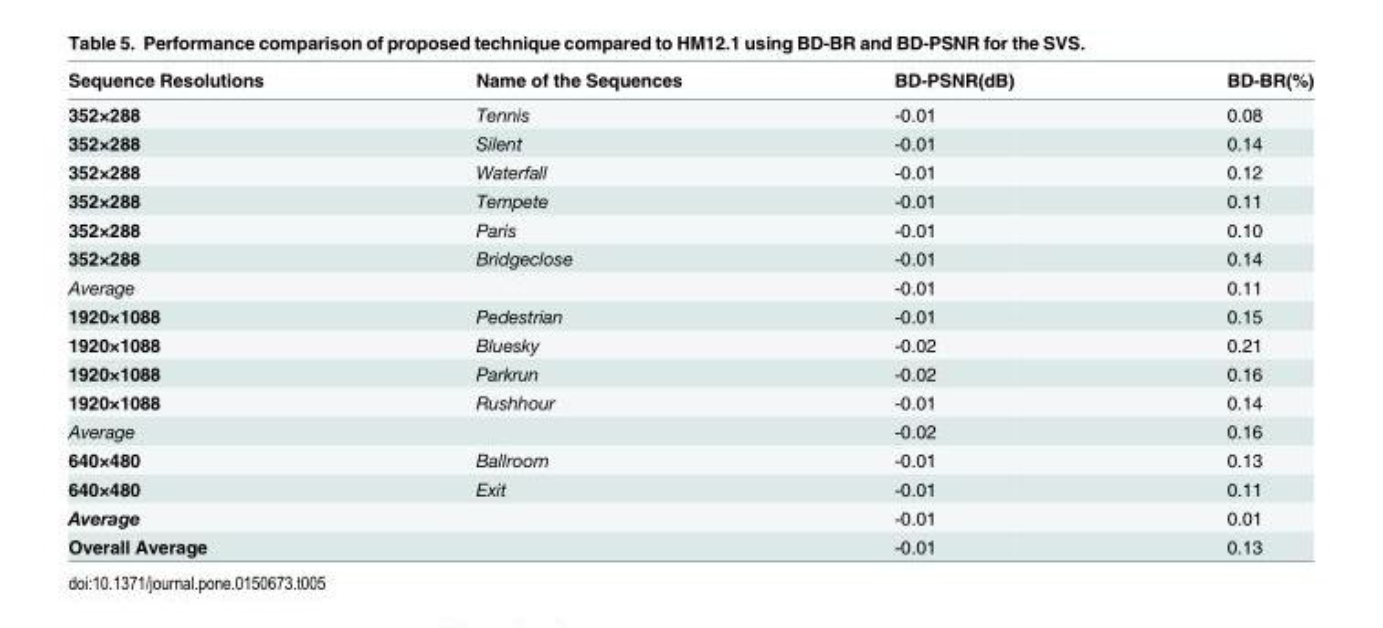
<table><thead><tr><td>Sequence Resolutions</td><td>Name of the Sequences</td><td>BD-PSNR(dB)</td><td>BD-BR(%)</td></tr></thead><tbody><tr><td>352×288</td><td>Tennis</td><td>-0.01</td><td>0.08</td></tr><tr><td>352×288</td><td>Silent</td><td>-0.01</td><td>0.14</td></tr><tr><td>352×288</td><td>Waterfall</td><td>-0.01</td><td>0.12</td></tr><tr><td>352×288</td><td>Tempete</td><td>-0.01</td><td>0.11</td></tr><tr><td>352×288</td><td>Paris</td><td>-0.01</td><td>0.10</td></tr><tr><td>352×288</td><td>Bridgeclose</td><td>-0.01</td><td>0.14</td></tr><tr><td colspan="2">Average</td><td>-0.01</td><td>0.11</td></tr><tr><td>1920×1088</td><td>Pedestrian</td><td>-0.01</td><td>0.15</td></tr><tr><td>1920×1088</td><td>Bluesky</td><td>-0.02</td><td>0.21</td></tr><tr><td>1920×1088</td><td>Parkrun</td><td>-0.02</td><td>0.16</td></tr><tr><td>1920×1088</td><td>Rushhour</td><td>-0.01</td><td>0.14</td></tr><tr><td colspan="2">Average</td><td>-0.02</td><td>0.16</td></tr><tr><td>640×480</td><td>Ballroom</td><td>-0.01</td><td>0.13</td></tr><tr><td>640×480</td><td>Exit</td><td>-0.01</td><td>0.11</td></tr><tr><td colspan="2">Average</td><td>-0.01</td><td>0.01</td></tr><tr><td colspan="2">Overall Average</td><td>-0.01</td><td>0.13</td></tr></tbody></table>